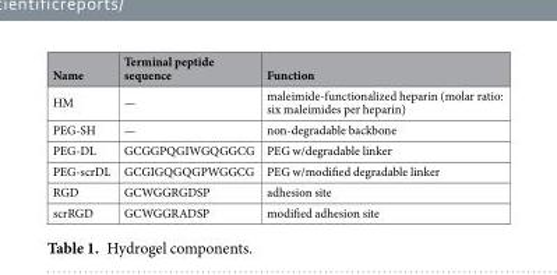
<table><thead><tr><td>Name</td><td>Terminal peptide sequence</td><td>Function</td></tr></thead><tbody><tr><td>HM</td><td>—</td><td>maleimide-functionalized heparin (molar ratio: six maleimides per heparin)</td></tr><tr><td>PEG-SH</td><td>—</td><td>non-degradable backbone</td></tr><tr><td>PEG-DL</td><td>GCGGPQGIWGQGGCG</td><td>PEG w/degradable linker</td></tr><tr><td>PEG-scrDL</td><td>GCGIGQGQGPWGGCG</td><td>PEG w/modified degradable linker</td></tr><tr><td>RGD</td><td>GCWGGRGDSP</td><td>adhesion site</td></tr><tr><td>scrRGD</td><td>GCWGGRADSP</td><td>modified adhesion site</td></tr></tbody></table>